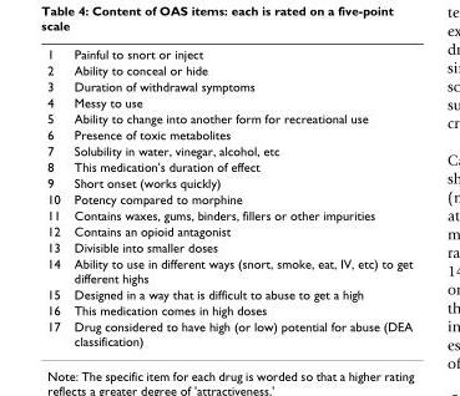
<table><tbody><tr><td>1</td><td>Painful to snort or inject</td></tr><tr><td>2</td><td>Ability to conceal or hide</td></tr><tr><td>3</td><td>Duration of withdrawal symptoms</td></tr><tr><td>4</td><td>Messy to use</td></tr><tr><td>5</td><td>Ability to change into another form for recreational use</td></tr><tr><td>6</td><td>Presence of toxic metabolites</td></tr><tr><td>7</td><td>Solubility in water, vinegar, alcohol, etc</td></tr><tr><td>8</td><td>This medication&#x27;s duration of effect</td></tr><tr><td>9</td><td>Short onset (works quickly)</td></tr><tr><td>10</td><td>Potency compared to morphine</td></tr><tr><td>11</td><td>Contains waxes, gums, binders, fillers or other impurities</td></tr><tr><td>12</td><td>Contains an opioid antagonist</td></tr><tr><td>13</td><td>Divisible into smaller doses</td></tr><tr><td>14</td><td>Ability to use in different ways (snort, smoke, eat, IV, etc) to get different highs</td></tr><tr><td>15</td><td>Designed in a way that is difficult to abuse to get a high</td></tr><tr><td>16</td><td>This medication comes in high doses</td></tr><tr><td>17</td><td>Drug considered to have high (or low) potential for abuse (DEA classification)</td></tr></tbody></table>